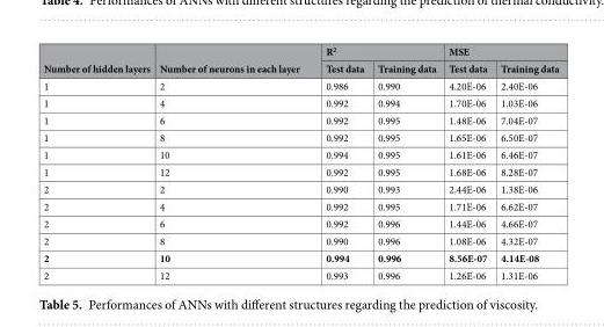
<table><thead><tr><td rowspan="2">Number of hidden layers</td><td rowspan="2">Number of neurons in each layer</td><td colspan="2">R<sup>2</sup></td><td colspan="2">MSE</td></tr><tr><td>Test data</td><td>Training data</td><td>Test data</td><td>Training data</td></tr></thead><tbody><tr><td>1</td><td>2</td><td>0.986</td><td>0.990</td><td>4.20E-06</td><td>2.40E-06</td></tr><tr><td>1</td><td>4</td><td>0.992</td><td>0.994</td><td>1.70E-06</td><td>1.03E-06</td></tr><tr><td>1</td><td>6</td><td>0.992</td><td>0.995</td><td>1.48E-06</td><td>7.04E-07</td></tr><tr><td>1</td><td>8</td><td>0.992</td><td>0.995</td><td>1.65E-06</td><td>6.50E-07</td></tr><tr><td>1</td><td>10</td><td>0.994</td><td>0.995</td><td>1.61E-06</td><td>6.46E-07</td></tr><tr><td>1</td><td>12</td><td>0.992</td><td>0.995</td><td>1.68E-06</td><td>8.28E-07</td></tr><tr><td>2</td><td>2</td><td>0.990</td><td>0.993</td><td>2.44E-06</td><td>1.38E-06</td></tr><tr><td>2</td><td>4</td><td>0.992</td><td>0.995</td><td>1.71E-06</td><td>6.62E-07</td></tr><tr><td>2</td><td>6</td><td>0.992</td><td>0.996</td><td>1.44E-06</td><td>4.66E-07</td></tr><tr><td>2</td><td>8</td><td>0.990</td><td>0.996</td><td>1.08E-06</td><td>4.32E-07</td></tr><tr><td>2</td><td>10</td><td>0.994</td><td>0.996</td><td>8.56E-07</td><td>4.14E-08</td></tr><tr><td>2</td><td>12</td><td>0.993</td><td>0.996</td><td>1.26E-06</td><td>1.31E-06</td></tr></tbody></table>